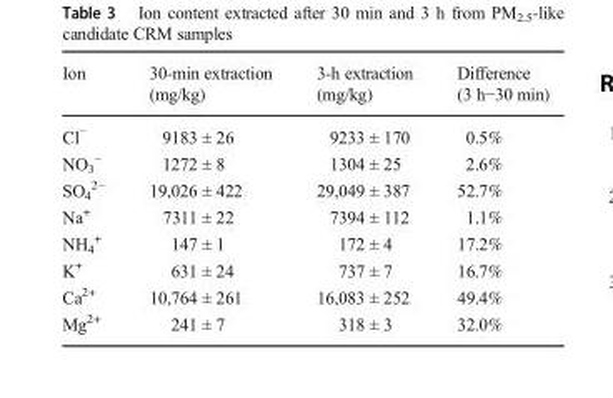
<table><thead><tr><td>Ion</td><td>30-min extraction (mg/kg)</td><td>3-h extraction (mg/kg)</td><td>Difference (3 h−30 min)</td></tr></thead><tbody><tr><td>Cl<sup>−</sup></td><td>9183 ± 26</td><td>9233 ± 170</td><td>0.5%</td></tr><tr><td>NO<sub>3</sub> <sup>−</sup></td><td>1272 ± 8</td><td>1304 ± 25</td><td>2.6%</td></tr><tr><td>SO<sub>4</sub> <sup>2−</sup></td><td>19,026 ± 422</td><td>29,049 ± 387</td><td>52.7%</td></tr><tr><td>Na<sup>+</sup></td><td>7311 ± 22</td><td>7394 ± 112</td><td>1.1%</td></tr><tr><td>NH<sub>4</sub> <sup>+</sup></td><td>147 ± 1</td><td>172 ± 4</td><td>17.2%</td></tr><tr><td>K<sup>+</sup></td><td>631 ± 24</td><td>737 ± 7</td><td>16.7%</td></tr><tr><td>Ca<sup>2+</sup></td><td>10,764 ± 261</td><td>16,083 ± 252</td><td>49.4%</td></tr><tr><td>Mg<sup>2+</sup></td><td>241 ± 7</td><td>318 ± 3</td><td>32.0%</td></tr></tbody></table>